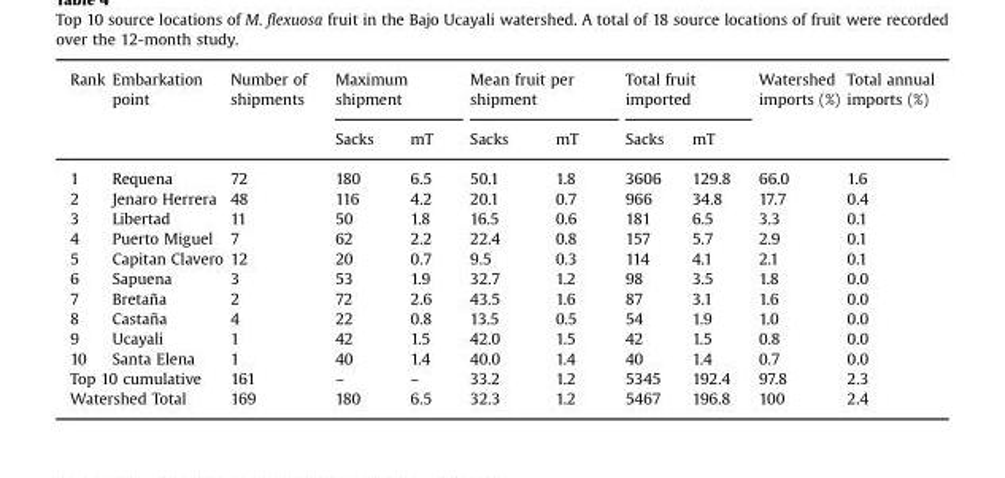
<table><thead><tr><td rowspan="2">Rank</td><td rowspan="2">Embarkation point</td><td rowspan="2">Number of shipments</td><td colspan="2">Maximum shipment</td><td colspan="2">Mean fruit per shipment</td><td colspan="2">Total fruit imported</td><td rowspan="2">Watershed imports (%)</td><td rowspan="2">Total annual imports (%)</td></tr><tr><td>Sacks</td><td>mT</td><td>Sacks</td><td>mT</td><td>Sacks</td><td>mT</td></tr></thead><tbody><tr><td>1</td><td>Requena</td><td>72</td><td>180</td><td>6.5</td><td>50.1</td><td>1.8</td><td>3606</td><td>129.8</td><td>66.0</td><td>1.6</td></tr><tr><td>2</td><td>Jenaro Herrera</td><td>48</td><td>116</td><td>4.2</td><td>20.1</td><td>0.7</td><td>966</td><td>34.8</td><td>17.7</td><td>0.4</td></tr><tr><td>3</td><td>Libertad</td><td>11</td><td>50</td><td>1.8</td><td>16.5</td><td>0.6</td><td>181</td><td>6.5</td><td>3.3</td><td>0.1</td></tr><tr><td>4</td><td>Puerto Miguel</td><td>7</td><td>62</td><td>2.2</td><td>22.4</td><td>0.8</td><td>157</td><td>5.7</td><td>2.9</td><td>0.1</td></tr><tr><td>5</td><td>Capitan Clavero</td><td>12</td><td>20</td><td>0.7</td><td>9.5</td><td>0.3</td><td>114</td><td>4.1</td><td>2.1</td><td>0.1</td></tr><tr><td>6</td><td>Sapuena</td><td>3</td><td>53</td><td>1.9</td><td>32.7</td><td>1.2</td><td>98</td><td>3.5</td><td>1.8</td><td>0.0</td></tr><tr><td>7</td><td>Bretaña</td><td>2</td><td>72</td><td>2.6</td><td>43.5</td><td>1.6</td><td>87</td><td>3.1</td><td>1.6</td><td>0.0</td></tr><tr><td>8</td><td>Castaña</td><td>4</td><td>22</td><td>0.8</td><td>13.5</td><td>0.5</td><td>54</td><td>1.9</td><td>1.0</td><td>0.0</td></tr><tr><td>9</td><td>Ucayali</td><td>1</td><td>42</td><td>1.5</td><td>42.0</td><td>1.5</td><td>42</td><td>1.5</td><td>0.8</td><td>0.0</td></tr><tr><td>10</td><td>Santa Elena</td><td>1</td><td>40</td><td>1.4</td><td>40.0</td><td>1.4</td><td>40</td><td>1.4</td><td>0.7</td><td>0.0</td></tr><tr><td colspan="2">Top 10 cumulative</td><td>161</td><td>–</td><td>–</td><td>33.2</td><td>1.2</td><td>5345</td><td>192.4</td><td>97.8</td><td>2.3</td></tr><tr><td colspan="2">Watershed Total</td><td>169</td><td>180</td><td>6.5</td><td>32.3</td><td>1.2</td><td>5467</td><td>196.8</td><td>100</td><td>2.4</td></tr></tbody></table>